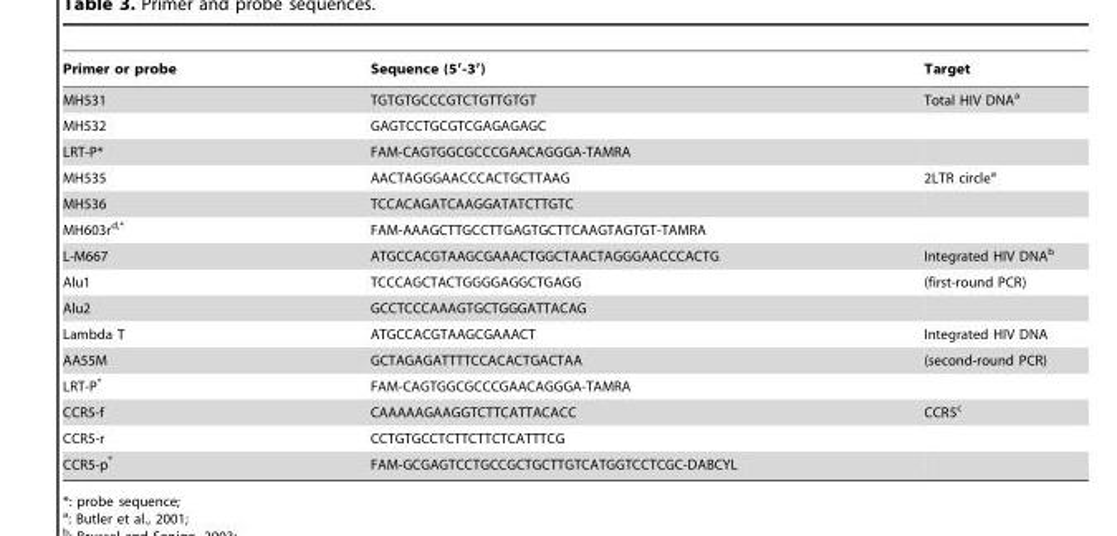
<table><thead><tr><td>Primer or probe</td><td>Sequence (5′-3′)</td><td>Target</td></tr></thead><tbody><tr><td>MH531</td><td>TGTGTGCCCGTCTGTTGTGT</td><td>Total HIV DNA<sup>a</sup></td></tr><tr><td>MH532</td><td>GAGTCCTGCGTCGAGAGAGC</td><td></td></tr><tr><td>LRT-P*</td><td>FAM-CAGTGGCGCCCGAACAGGGA-TAMRA</td><td></td></tr><tr><td>MH535</td><td>AACTAGGGAACCCACTGCTTAAG</td><td>2LTR circle<sup>a</sup></td></tr><tr><td>MH536</td><td>TCCACAGATCAAGGATATCTTGTC</td><td></td></tr><tr><td>MH603r<sup>d,</sup>*</td><td>FAM-AAAGCTTGCCTTGAGTGCTTCAAGTAGTGT-TAMRA</td><td></td></tr><tr><td>L-M667</td><td>ATGCCACGTAAGCGAAACTGGCTAACTAGGGAACCCACTG</td><td>Integrated HIV DNA<sup>b</sup></td></tr><tr><td>Alu1</td><td>TCCCAGCTACTGGGGAGGCTGAGG</td><td>(first-round PCR)</td></tr><tr><td>Alu2</td><td>GCCTCCCAAAGTGCTGGGATTACAG</td><td></td></tr><tr><td>Lambda T</td><td>ATGCCACGTAAGCGAAACT</td><td>Integrated HIV DNA</td></tr><tr><td>AA55M</td><td>GCTAGAGATTTTCCACACTGACTAA</td><td>(second-round PCR)</td></tr><tr><td>LRT-P*</td><td>FAM-CAGTGGCGCCCGAACAGGGA-TAMRA</td><td></td></tr><tr><td>CCR5-f</td><td>CAAAAAGAAGGTCTTCATTACACC</td><td>CCR5<sup>c</sup></td></tr><tr><td>CCR5-r</td><td>CCTGTGCCTCTTCTTCTCATTTCG</td><td></td></tr><tr><td>CCR5-p*</td><td>FAM-GCGAGTCCTGCCGCTGCTTGTCATGGTCCTCGC-DABCYL</td><td></td></tr></tbody></table>